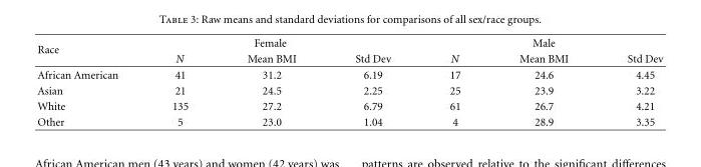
<table><thead><tr><td rowspan="2">Race</td><td colspan="3">Female</td><td colspan="3">Male</td></tr><tr><td>N</td><td>Mean BMI</td><td>Std Dev</td><td>N</td><td>Mean BMI</td><td>Std Dev</td></tr></thead><tbody><tr><td>African American</td><td>41</td><td>31.2</td><td>6.19</td><td>17</td><td>24.6</td><td>4.45</td></tr><tr><td>Asian</td><td>21</td><td>24.5</td><td>2.25</td><td>25</td><td>23.9</td><td>3.22</td></tr><tr><td>White</td><td>135</td><td>27.2</td><td>6.79</td><td>61</td><td>26.7</td><td>4.21</td></tr><tr><td>Other</td><td>5</td><td>23.0</td><td>1.04</td><td>4</td><td>28.9</td><td>3.35</td></tr></tbody></table>